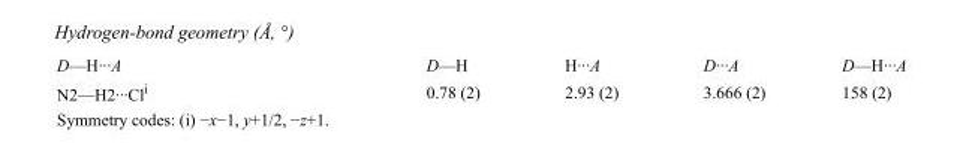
<table><tbody><tr><td>D—H···A</td><td>D—H</td><td>H···A</td><td>D···A</td><td>D—H···A</td></tr><tr><td>N2—H2···Cl<sup>i</sup></td><td>0.78 (2)</td><td>2.93 (2)</td><td>3.666 (2)</td><td>158 (2)</td></tr></tbody></table>